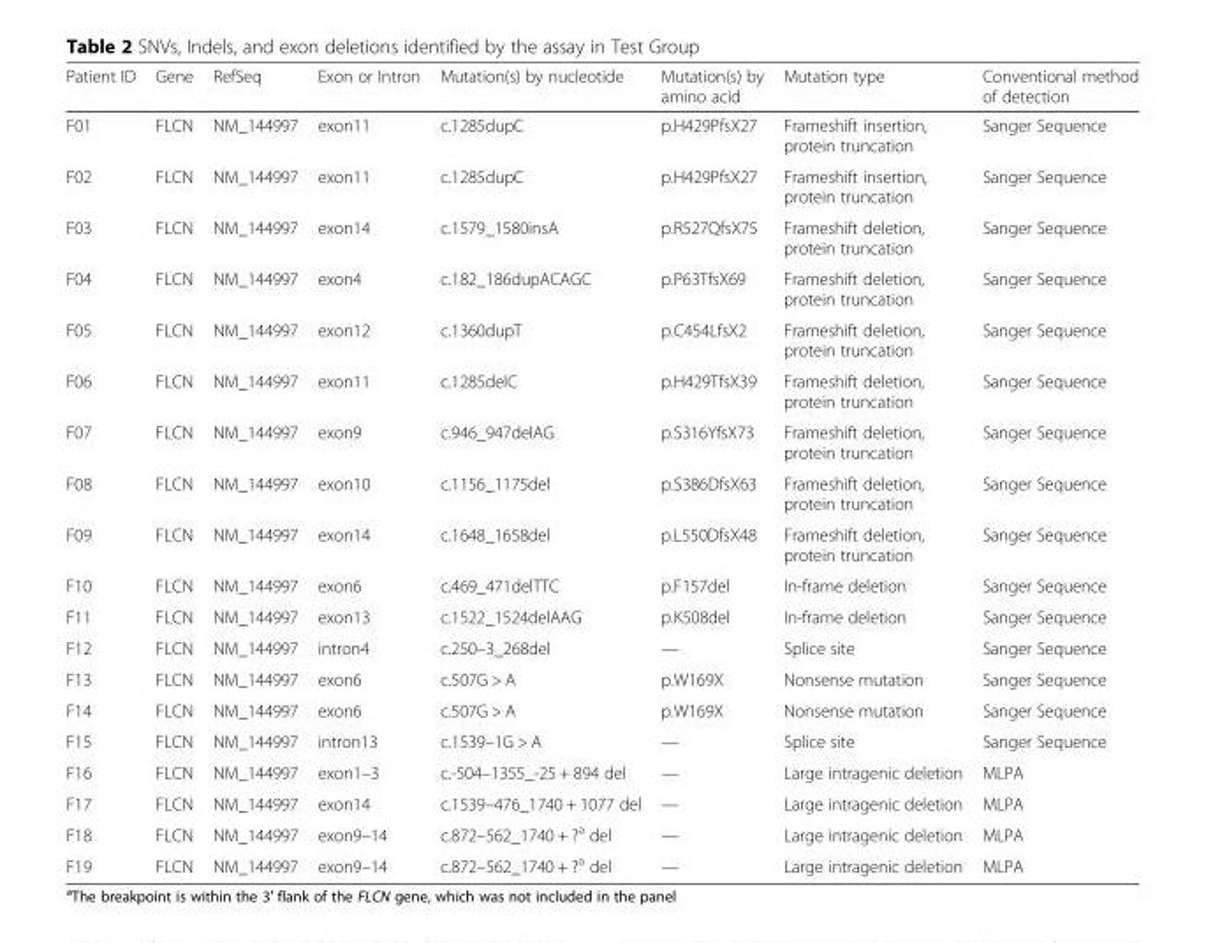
<table><thead><tr><td>Patient ID</td><td>Gene</td><td>RefSeq</td><td>Exon or Intron</td><td>Mutation(s) by nucleotide</td><td>Mutation(s) by amino acid</td><td>Mutation type</td><td>Conventional method of detection</td></tr></thead><tbody><tr><td>F01</td><td>FLCN</td><td>NM_144997</td><td>exon11</td><td>c.1285dupC</td><td>p.H429PfsX27</td><td>Frameshift insertion, protein truncation</td><td>Sanger Sequence</td></tr><tr><td>F02</td><td>FLCN</td><td>NM_144997</td><td>exon11</td><td>c.1285dupC</td><td>p.H429PfsX27</td><td>Frameshift insertion, protein truncation</td><td>Sanger Sequence</td></tr><tr><td>F03</td><td>FLCN</td><td>NM_144997</td><td>exon14</td><td>c.1579_1580insA</td><td>p.R527QfsX75</td><td>Frameshift deletion, protein truncation</td><td>Sanger Sequence</td></tr><tr><td>F04</td><td>FLCN</td><td>NM_144997</td><td>exon4</td><td>c.182_186dupACAGC</td><td>p.P63TfsX69</td><td>Frameshift deletion, protein truncation</td><td>Sanger Sequence</td></tr><tr><td>F05</td><td>FLCN</td><td>NM_144997</td><td>exon12</td><td>c.1360dupT</td><td>p.C454LfsX2</td><td>Frameshift deletion, protein truncation</td><td>Sanger Sequence</td></tr><tr><td>F06</td><td>FLCN</td><td>NM_144997</td><td>exon11</td><td>c.1285delC</td><td>p.H429TfsX39</td><td>Frameshift deletion, protein truncation</td><td>Sanger Sequence</td></tr><tr><td>F07</td><td>FLCN</td><td>NM_144997</td><td>exon9</td><td>c.946_947delAG</td><td>p.S316YfsX73</td><td>Frameshift deletion, protein truncation</td><td>Sanger Sequence</td></tr><tr><td>F08</td><td>FLCN</td><td>NM_144997</td><td>exon10</td><td>c.1156_1175del</td><td>p.S386DfsX63</td><td>Frameshift deletion, protein truncation</td><td>Sanger Sequence</td></tr><tr><td>F09</td><td>FLCN</td><td>NM_144997</td><td>exon14</td><td>c.1648_1658del</td><td>p.L550DfsX48</td><td>Frameshift deletion, protein truncation</td><td>Sanger Sequence</td></tr><tr><td>F10</td><td>FLCN</td><td>NM_144997</td><td>exon6</td><td>c.469_471delTTC</td><td>p.F157del</td><td>In-frame deletion</td><td>Sanger Sequence</td></tr><tr><td>F11</td><td>FLCN</td><td>NM_144997</td><td>exon13</td><td>c.1522_1524delAAG</td><td>p.K508del</td><td>In-frame deletion</td><td>Sanger Sequence</td></tr><tr><td>F12</td><td>FLCN</td><td>NM_144997</td><td>intron4</td><td>c.250–3_268del</td><td>—</td><td>Splice site</td><td>Sanger Sequence</td></tr><tr><td>F13</td><td>FLCN</td><td>NM_144997</td><td>exon6</td><td>c.507G &gt; A</td><td>p.W169X</td><td>Nonsense mutation</td><td>Sanger Sequence</td></tr><tr><td>F14</td><td>FLCN</td><td>NM_144997</td><td>exon6</td><td>c.507G &gt; A</td><td>p.W169X</td><td>Nonsense mutation</td><td>Sanger Sequence</td></tr><tr><td>F15</td><td>FLCN</td><td>NM_144997</td><td>intron13</td><td>c.1539–1G &gt; A</td><td>—</td><td>Splice site</td><td>Sanger Sequence</td></tr><tr><td>F16</td><td>FLCN</td><td>NM_144997</td><td>exon1–3</td><td>c.-504–1355_-25 + 894 del</td><td>—</td><td>Large intragenic deletion</td><td>MLPA</td></tr><tr><td>F17</td><td>FLCN</td><td>NM_144997</td><td>exon14</td><td>c.1539–476_1740 + 1077 del</td><td>—</td><td>Large intragenic deletion</td><td>MLPA</td></tr><tr><td>F18</td><td>FLCN</td><td>NM_144997</td><td>exon9–14</td><td>c.872–562_1740 + ?<sup>a</sup> del</td><td>—</td><td>Large intragenic deletion</td><td>MLPA</td></tr><tr><td>F19</td><td>FLCN</td><td>NM_144997</td><td>exon9–14</td><td>c.872–562_1740 + ?<sup>a</sup> del</td><td>—</td><td>Large intragenic deletion</td><td>MLPA</td></tr></tbody></table>